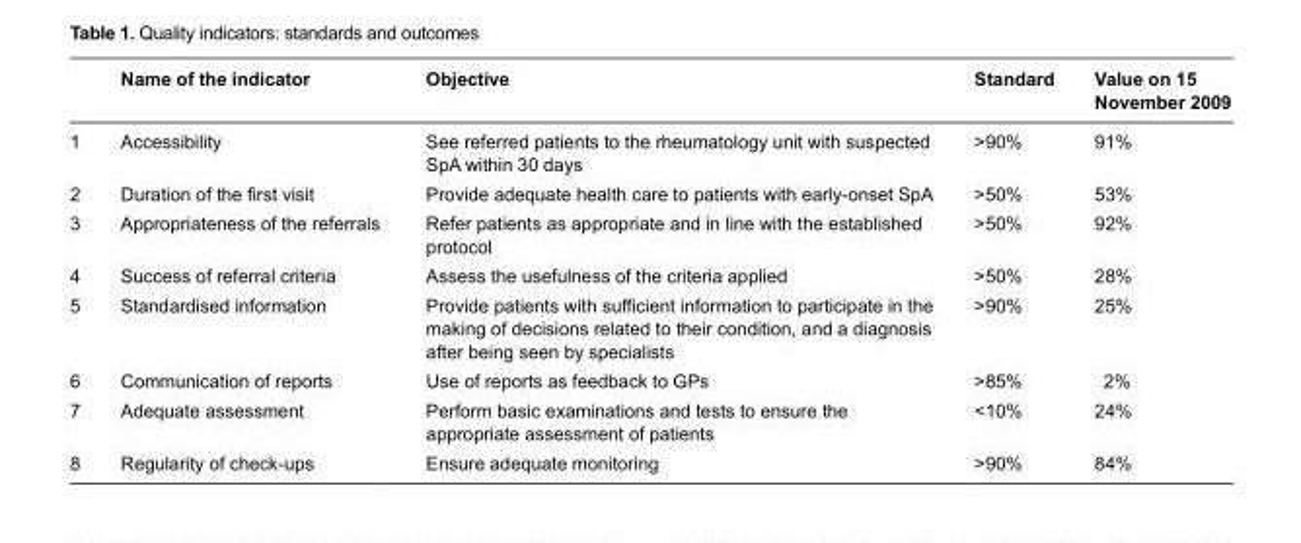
<table><thead><tr><td></td><td>Name of the indicator</td><td>Objective</td><td>Standard</td><td>Value on 15 November 2009</td></tr></thead><tbody><tr><td>1</td><td>Accessibility</td><td>See referred patients to the rheumatology unit with suspected SpA within 30 days</td><td>&gt;90%</td><td>91%</td></tr><tr><td>2</td><td>Duration of the first visit</td><td>Provide adequate health care to patients with early-onset SpA</td><td>&gt;50%</td><td>53%</td></tr><tr><td>3</td><td>Appropriateness of the referrals</td><td>Refer patients as appropriate and in line with the established protocol</td><td>&gt;50%</td><td>92%</td></tr><tr><td>4</td><td>Success of referral criteria</td><td>Assess the usefulness of the criteria applied</td><td>&gt;50%</td><td>28%</td></tr><tr><td>5</td><td>Standardised information</td><td>Provide patients with sufficient information to participate in the making of decisions related to their condition, and a diagnosis after being seen by specialists</td><td>&gt;90%</td><td>25%</td></tr><tr><td>6</td><td>Communication of reports</td><td>Use of reports as feedback to GPs</td><td>&gt;85%</td><td>2%</td></tr><tr><td>7</td><td>Adequate assessment</td><td>Perform basic examinations and tests to ensure the appropriate assessment of patients</td><td>&lt;10%</td><td>24%</td></tr><tr><td>8</td><td>Regularity of check-ups</td><td>Ensure adequate monitoring</td><td>&gt;90%</td><td>84%</td></tr></tbody></table>